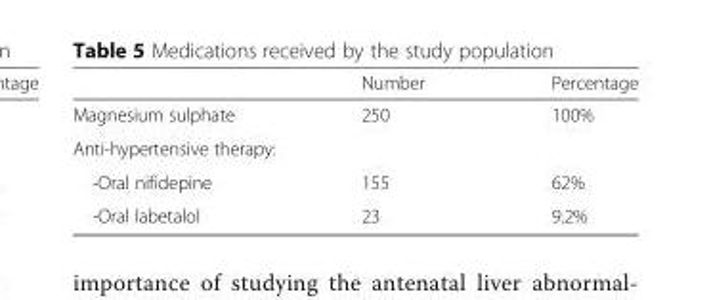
<table><thead><tr><td></td><td>Number</td><td>Percentage</td></tr></thead><tbody><tr><td>Magnesium sulphate</td><td>250</td><td>100%</td></tr><tr><td colspan="3">Anti-hypertensive therapy:</td></tr><tr><td>-Oral nifidepine</td><td>155</td><td>62%</td></tr><tr><td>-Oral labetalol</td><td>23</td><td>9.2%</td></tr></tbody></table>